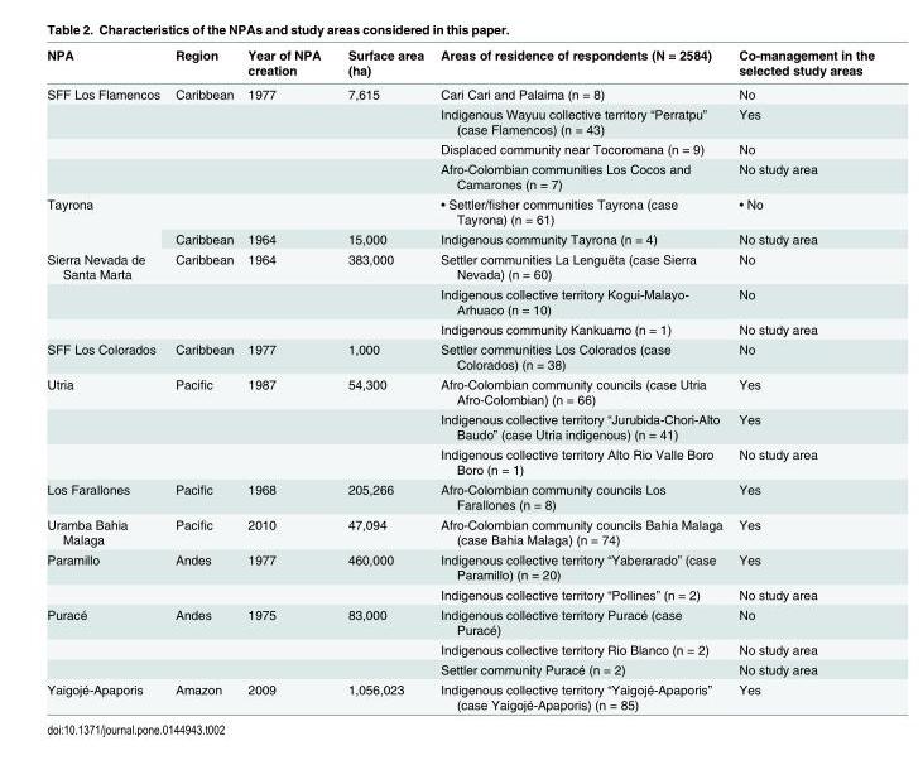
<table><thead><tr><td>NPA</td><td>Region</td><td>Year of NPA creation</td><td>Surface area (ha)</td><td>Areas of residence of respondents (N = 2584)</td><td>Co-management in the selected study areas</td></tr></thead><tbody><tr><td rowspan="4">SFF Los Flamencos</td><td>Caribbean</td><td>1977</td><td>7,615</td><td>Cari Cari and Palaima (n = 8)</td><td>No</td></tr><tr><td></td><td></td><td></td><td>Indigenous Wayuu collective territory “Perratpu” (case Flamencos) (n = 43)</td><td>Yes</td></tr><tr><td></td><td></td><td></td><td>Displaced community near Tocoromana (n = 9)</td><td>No</td></tr><tr><td></td><td></td><td></td><td>Afro-Colombian communities Los Cocos and Camarones (n = 7)</td><td>No study area</td></tr><tr><td rowspan="2">Tayrona</td><td></td><td></td><td></td><td>• Settler/fisher communities Tayrona (case Tayrona) (n = 61)</td><td>• No</td></tr><tr><td>Caribbean</td><td>1964</td><td>15,000</td><td>Indigenous community Tayrona (n = 4)</td><td>No study area</td></tr><tr><td rowspan="3">Sierra Nevada de Santa Marta</td><td>Caribbean</td><td>1964</td><td>383,000</td><td>Settler communities La Lenguëta (case Sierra Nevada) (n = 60)</td><td>No</td></tr><tr><td></td><td></td><td></td><td>Indigenous collective territory Kogui-Malayo- Arhuaco (n = 10)</td><td>No</td></tr><tr><td></td><td></td><td></td><td>Indigenous community Kankuamo (n = 1)</td><td>No study area</td></tr><tr><td>SFF Los Colorados</td><td>Caribbean</td><td>1977</td><td>1,000</td><td>Settler communities Los Colorados (case Colorados) (n = 38)</td><td>No</td></tr><tr><td rowspan="3">Utria</td><td>Pacific</td><td>1987</td><td>54,300</td><td>Afro-Colombian community councils (case Utria Afro-Colombian) (n = 66)</td><td>Yes</td></tr><tr><td></td><td></td><td></td><td>Indigenous collective territory “Jurubida-Chori-Alto Baudo” (case Utria indigenous) (n = 41)</td><td>Yes</td></tr><tr><td></td><td></td><td></td><td>Indigenous collective territory Alto Rio Valle Boro Boro (n = 1)</td><td>No study area</td></tr><tr><td>Los Farallones</td><td>Pacific</td><td>1968</td><td>205,266</td><td>Afro-Colombian community councils Los Farallones (n = 8)</td><td>Yes</td></tr><tr><td>Uramba Bahia Malaga</td><td>Pacific</td><td>2010</td><td>47,094</td><td>Afro-Colombian community councils Bahia Malaga (case Bahia Malaga) (n = 74)</td><td>Yes</td></tr><tr><td rowspan="2">Paramillo</td><td>Andes</td><td>1977</td><td>460,000</td><td>Indigenous collective territory “Yaberarado” (case Paramillo) (n = 20)</td><td>Yes</td></tr><tr><td></td><td></td><td></td><td>Indigenous collective territory “Pollines” (n = 2)</td><td>No study area</td></tr><tr><td rowspan="3">Puracé</td><td>Andes</td><td>1975</td><td>83,000</td><td>Indigenous collective territory Puracé (case Puracé)</td><td>No</td></tr><tr><td></td><td></td><td></td><td>Indigenous collective territory Rio Blanco (n = 2)</td><td>No study area</td></tr><tr><td></td><td></td><td></td><td>Settler community Puracé (n = 2)</td><td>No study area</td></tr><tr><td>Yaigojé-Apaporis</td><td>Amazon</td><td>2009</td><td>1,056,023</td><td>Indigenous collective territory “Yaigojé-Apaporis” (case Yaigojé-Apaporis) (n = 85)</td><td>Yes</td></tr></tbody></table>